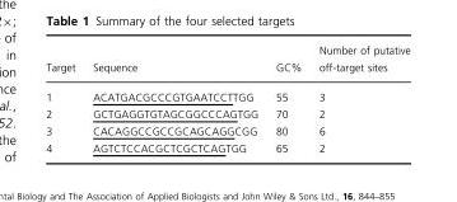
<table><thead><tr><td>Target</td><td>Sequence</td><td>GC%</td><td>Number of putative off-target sites</td></tr></thead><tbody><tr><td>1</td><td>ACATGACGCCCGTGAATCCTTGG</td><td>55</td><td>3</td></tr><tr><td>2</td><td>GCTGAGGTGTAGCGGCCCAGTGG</td><td>70</td><td>2</td></tr><tr><td>3</td><td>CACAGGCCGCCGCAGCAGGCGG</td><td>80</td><td>6</td></tr><tr><td>4</td><td>AGTCTCCACGCTCGCTCAGTGG</td><td>65</td><td>2</td></tr></tbody></table>